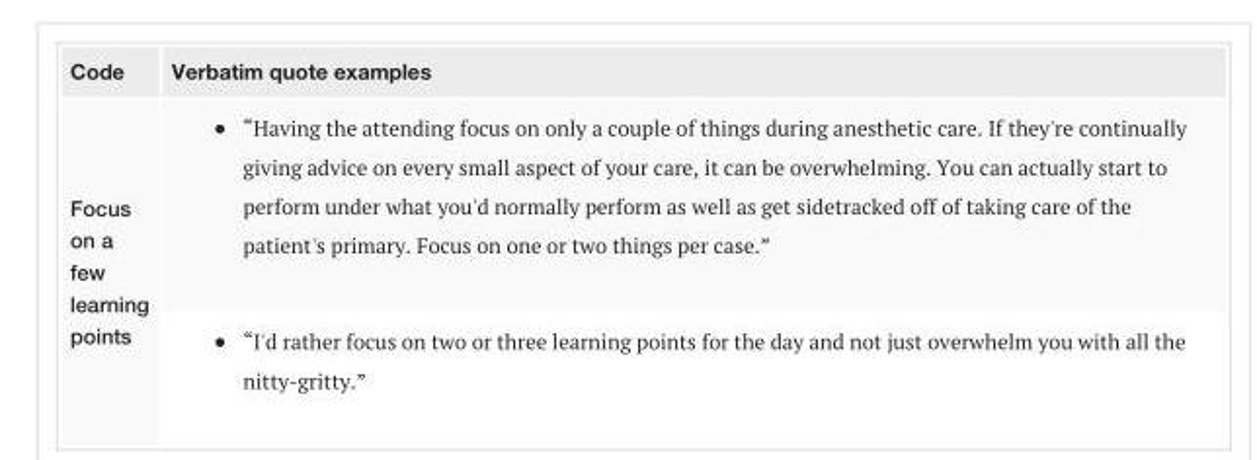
<table><tbody><tr><td>Code</td><td>Verbatim quote examples</td></tr><tr><td rowspan="2">Focus on a few learning points</td><td>“Having the attending focus on only a couple of things during anesthetic care. If they&#x27;re continually giving advice on every small aspect of your care, it can be overwhelming. You can actually start to perform under what you&#x27;d normally perform as well as get sidetracked off of taking care of the patient&#x27;s primary. Focus on one or two things per case.”</td></tr><tr><td>“I&#x27;d rather focus on two or three learning points for the day and not just overwhelm you with all the nitty-gritty.”</td></tr></tbody></table>